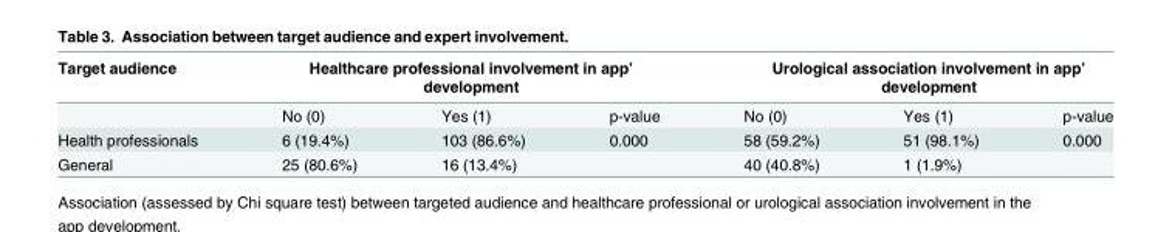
<table><thead><tr><td rowspan="2">Target audience</td><td colspan="3">Healthcare professional involvement in app’ development</td><td colspan="3">Urological association involvement in app’ development</td></tr><tr><td>No (0)</td><td>Yes (1)</td><td>p-value</td><td>No (0)</td><td>Yes (1)</td><td>p-value</td></tr></thead><tbody><tr><td>Health professionals</td><td>6 (19.4%)</td><td>103 (86.6%)</td><td>0.000</td><td>58 (59.2%)</td><td>51 (98.1%)</td><td>0.000</td></tr><tr><td>General</td><td>25 (80.6%)</td><td>16 (13.4%)</td><td></td><td>40 (40.8%)</td><td>1 (1.9%)</td><td></td></tr></tbody></table>